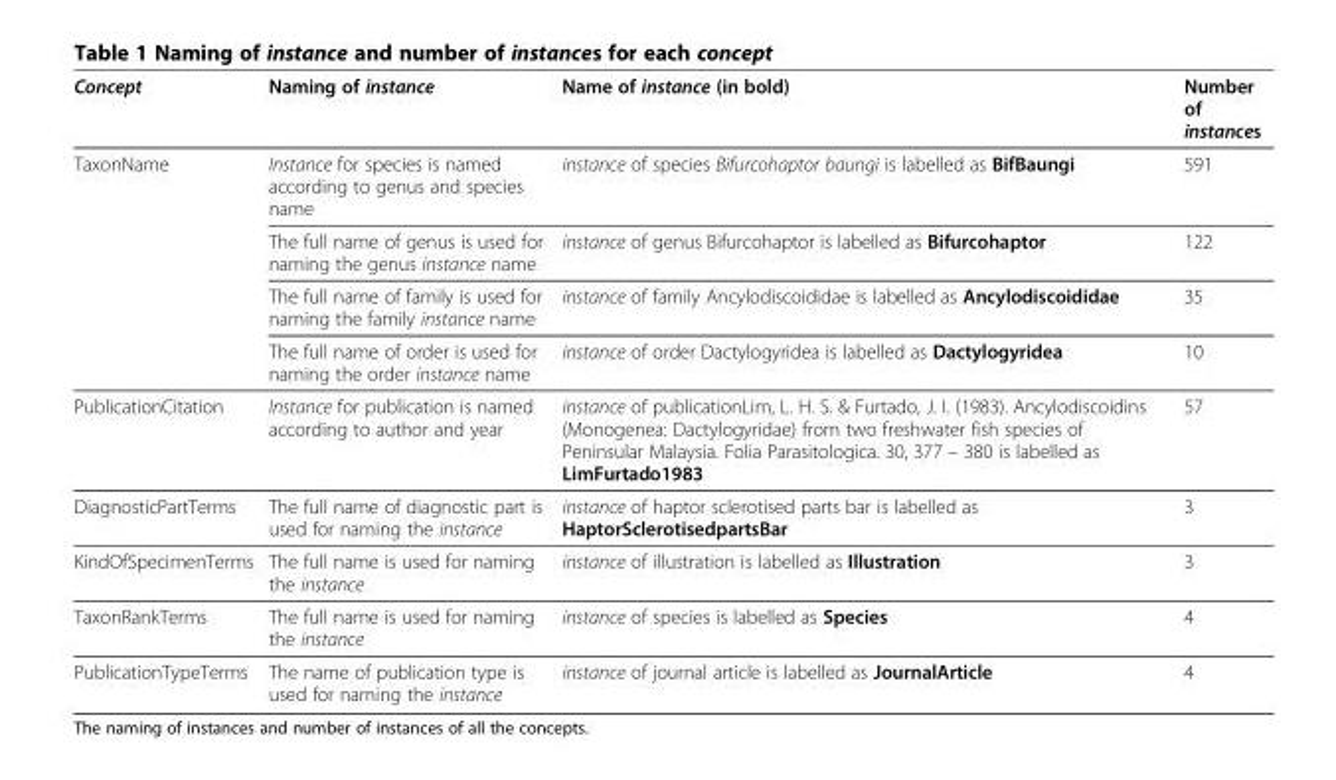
<table><thead><tr><td>Concept</td><td>Naming of instance</td><td>Name of instance (in bold)</td><td>Number of instances</td></tr></thead><tbody><tr><td rowspan="4">TaxonName</td><td>Instance for species is named according to genus and species name</td><td>instance of species Bifurcohaptor baungi is labelled as BifBaungi</td><td>591</td></tr><tr><td>The full name of genus is used for naming the genus instance name</td><td>instance of genus Bifurcohaptor is labelled as Bifurcohaptor</td><td>122</td></tr><tr><td>The full name of family is used for naming the family instance name</td><td>instance of family Ancylodiscoididae is labelled as Ancylodiscoididae</td><td>35</td></tr><tr><td>The full name of order is used for naming the order instance name</td><td>instance of order Dactylogyridea is labelled as Dactylogyridea</td><td>10</td></tr><tr><td>PublicationCitation</td><td>Instance for publication is named according to author and year</td><td>instance of publicationLim, L. H. S. &amp; Furtado, J. I. (1983). Ancylodiscoidins (Monogenea: Dactylogyridae) from two freshwater fish species of Peninsular Malaysia. Folia Parasitologica. 30, 377 – 380 is labelled as LimFurtado1983</td><td>57</td></tr><tr><td>DiagnosticPartTerms</td><td>The full name of diagnostic part is used for naming the instance</td><td>instance of haptor sclerotised parts bar is labelled as HaptorSclerotisedpartsBar</td><td>3</td></tr><tr><td>KindOfSpecimenTerms</td><td>The full name is used for naming the instance</td><td>instance of illustration is labelled as Illustration</td><td>3</td></tr><tr><td>TaxonRankTerms</td><td>The full name is used for naming the instance</td><td>instance of species is labelled as Species</td><td>4</td></tr><tr><td>PublicationTypeTerms</td><td>The name of publication type is used for naming the instance</td><td>instance of journal article is labelled as JournalArticle</td><td>4</td></tr></tbody></table>